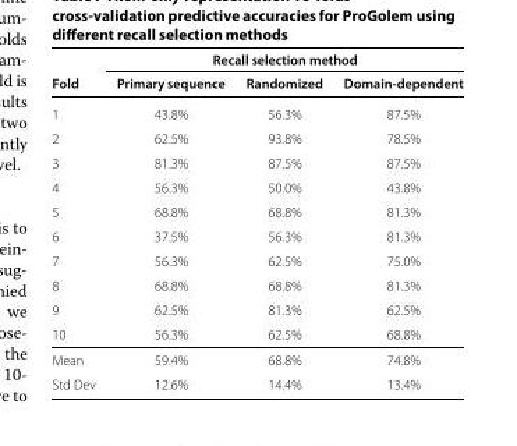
<table><thead><tr><td rowspan="2">Fold</td><td colspan="3">Recall selection method</td></tr><tr><td>Primary sequence</td><td>Randomized</td><td>Domain-dependent</td></tr></thead><tbody><tr><td>1</td><td>43.8%</td><td>56.3%</td><td>87.5%</td></tr><tr><td>2</td><td>62.5%</td><td>93.8%</td><td>78.5%</td></tr><tr><td>3</td><td>81.3%</td><td>87.5%</td><td>87.5%</td></tr><tr><td>4</td><td>56.3%</td><td>50.0%</td><td>43.8%</td></tr><tr><td>5</td><td>68.8%</td><td>68.8%</td><td>81.3%</td></tr><tr><td>6</td><td>37.5%</td><td>56.3%</td><td>81.3%</td></tr><tr><td>7</td><td>56.3%</td><td>62.5%</td><td>75.0%</td></tr><tr><td>8</td><td>68.8%</td><td>68.8%</td><td>81.3%</td></tr><tr><td>9</td><td>62.5%</td><td>81.3%</td><td>62.5%</td></tr><tr><td>10</td><td>56.3%</td><td>62.5%</td><td>68.8%</td></tr><tr><td>Mean</td><td>59.4%</td><td>68.8%</td><td>74.8%</td></tr><tr><td>Std Dev</td><td>12.6%</td><td>14.4%</td><td>13.4%</td></tr></tbody></table>